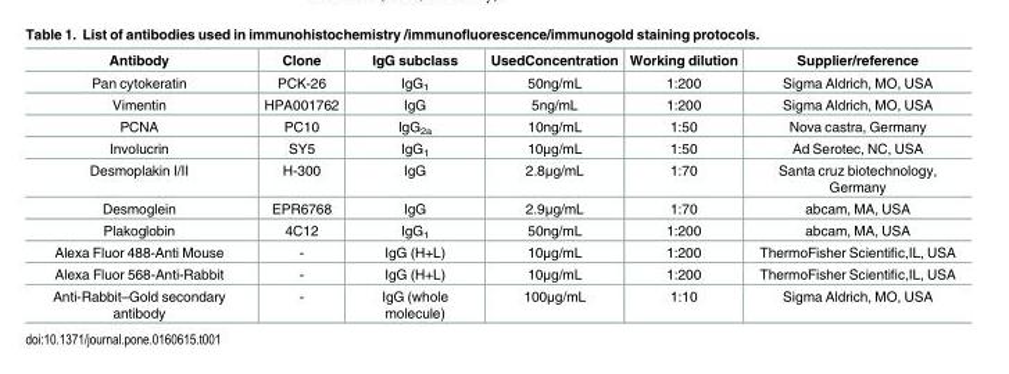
<table><thead><tr><td>Antibody</td><td>Clone</td><td>IgG subclass</td><td>UsedConcentration</td><td>Working dilution</td><td>Supplier/reference</td></tr></thead><tbody><tr><td>Pan cytokeratin</td><td>PCK-26</td><td>IgG<sub>1</sub></td><td>50ng/mL</td><td>1:200</td><td>Sigma Aldrich, MO, USA</td></tr><tr><td>Vimentin</td><td>HPA001762</td><td>IgG</td><td>5ng/mL</td><td>1:200</td><td>Sigma Aldrich, MO, USA</td></tr><tr><td>PCNA</td><td>PC10</td><td>IgG<sub>2a</sub></td><td>10ng/mL</td><td>1:50</td><td>Nova castra, Germany</td></tr><tr><td>Involucrin</td><td>SY5</td><td>IgG<sub>1</sub></td><td>10μg/mL</td><td>1:50</td><td>Ad Serotec, NC, USA</td></tr><tr><td>Desmoplakin I/II</td><td>H-300</td><td>IgG</td><td>2.8μg/mL</td><td>1:70</td><td>Santa cruz biotechnology, Germany</td></tr><tr><td>Desmoglein</td><td>EPR6768</td><td>IgG</td><td>2.9μg/mL</td><td>1:70</td><td>abcam, MA, USA</td></tr><tr><td>Plakoglobin</td><td>4C12</td><td>IgG<sub>1</sub></td><td>50ng/mL</td><td>1:200</td><td>abcam, MA, USA</td></tr><tr><td>Alexa Fluor 488-Anti Mouse</td><td>-</td><td>IgG (H+L)</td><td>10μg/mL</td><td>1:200</td><td>ThermoFisher Scientific,IL, USA</td></tr><tr><td>Alexa Fluor 568-Anti-Rabbit</td><td>-</td><td>IgG (H+L)</td><td>10μg/mL</td><td>1:200</td><td>ThermoFisher Scientific,IL, USA</td></tr><tr><td>Anti-Rabbit–Gold secondary antibody</td><td>-</td><td>IgG (whole molecule)</td><td>100μg/mL</td><td>1:10</td><td>Sigma Aldrich, MO, USA</td></tr></tbody></table>